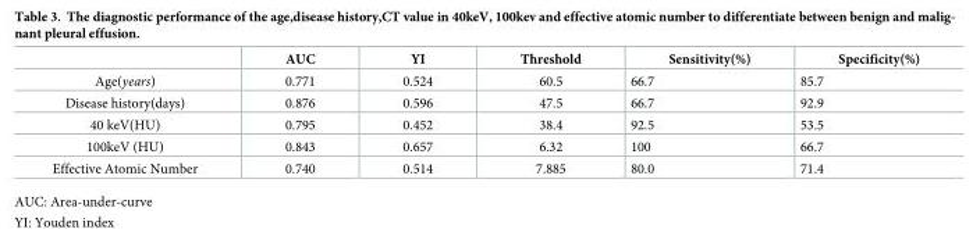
<table><thead><tr><td></td><td>AUC</td><td>YI</td><td>Threshold</td><td>Sensitivity(%)</td><td>Specificity(%)</td></tr></thead><tbody><tr><td>Age(years)</td><td>0.771</td><td>0.524</td><td>60.5</td><td>66.7</td><td>85.7</td></tr><tr><td>Disease history(days)</td><td>0.876</td><td>0.596</td><td>47.5</td><td>66.7</td><td>92.9</td></tr><tr><td>40 keV(HU)</td><td>0.795</td><td>0.452</td><td>38.4</td><td>92.5</td><td>53.5</td></tr><tr><td>100keV (HU)</td><td>0.843</td><td>0.657</td><td>6.32</td><td>100</td><td>66.7</td></tr><tr><td>Effective Atomic Number</td><td>0.740</td><td>0.514</td><td>7.885</td><td>80.0</td><td>71.4</td></tr></tbody></table>